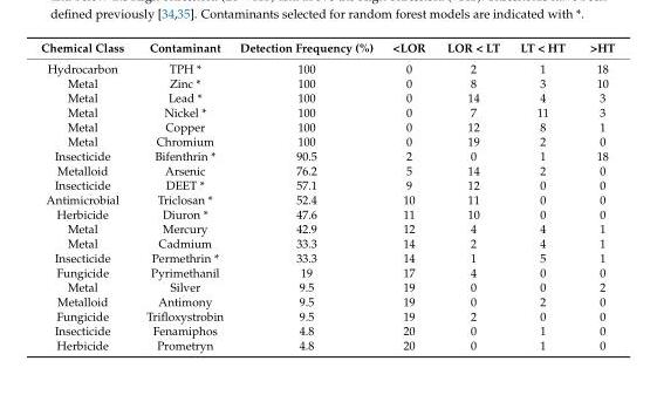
<table><thead><tr><td>Chemical Class</td><td>Contaminant</td><td>Detection Frequency (%)</td><td>&lt;LOR</td><td>LOR &lt; LT</td><td>LT &lt; HT</td><td>&gt;HT</td></tr></thead><tbody><tr><td>Hydrocarbon</td><td>TPH *</td><td>100</td><td>0</td><td>2</td><td>1</td><td>18</td></tr><tr><td>Metal</td><td>Zinc *</td><td>100</td><td>0</td><td>8</td><td>3</td><td>10</td></tr><tr><td>Metal</td><td>Lead *</td><td>100</td><td>0</td><td>14</td><td>4</td><td>3</td></tr><tr><td>Metal</td><td>Nickel *</td><td>100</td><td>0</td><td>7</td><td>11</td><td>3</td></tr><tr><td>Metal</td><td>Copper</td><td>100</td><td>0</td><td>12</td><td>8</td><td>1</td></tr><tr><td>Metal</td><td>Chromium</td><td>100</td><td>0</td><td>19</td><td>2</td><td>0</td></tr><tr><td>Insecticide</td><td>Bifenthrin *</td><td>90.5</td><td>2</td><td>0</td><td>1</td><td>18</td></tr><tr><td>Metalloid</td><td>Arsenic</td><td>76.2</td><td>5</td><td>14</td><td>2</td><td>0</td></tr><tr><td>Insecticide</td><td>DEET *</td><td>57.1</td><td>9</td><td>12</td><td>0</td><td>0</td></tr><tr><td>Antimicrobial</td><td>Triclosan *</td><td>52.4</td><td>10</td><td>11</td><td>0</td><td>0</td></tr><tr><td>Herbicide</td><td>Diuron *</td><td>47.6</td><td>11</td><td>10</td><td>0</td><td>0</td></tr><tr><td>Metal</td><td>Mercury</td><td>42.9</td><td>12</td><td>4</td><td>4</td><td>1</td></tr><tr><td>Metal</td><td>Cadmium</td><td>33.3</td><td>14</td><td>2</td><td>4</td><td>1</td></tr><tr><td>Insecticide</td><td>Permethrin *</td><td>33.3</td><td>14</td><td>1</td><td>5</td><td>1</td></tr><tr><td>Fungicide</td><td>Pyrimethanil</td><td>19</td><td>17</td><td>4</td><td>0</td><td>0</td></tr><tr><td>Metal</td><td>Silver</td><td>9.5</td><td>19</td><td>0</td><td>0</td><td>2</td></tr><tr><td>Metalloid</td><td>Antimony</td><td>9.5</td><td>19</td><td>0</td><td>2</td><td>0</td></tr><tr><td>Fungicide</td><td>Trifloxystrobin</td><td>9.5</td><td>19</td><td>2</td><td>0</td><td>0</td></tr><tr><td>Insecticide</td><td>Fenamiphos</td><td>4.8</td><td>20</td><td>0</td><td>1</td><td>0</td></tr><tr><td>Herbicide</td><td>Prometryn</td><td>4.8</td><td>20</td><td>0</td><td>1</td><td>0</td></tr></tbody></table>